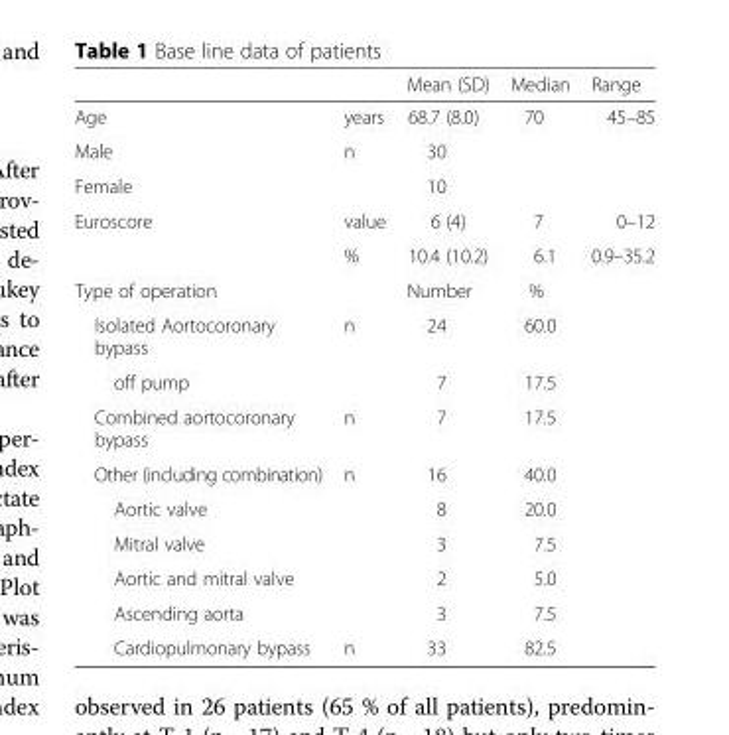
<table><thead><tr><td></td><td></td><td>Mean (SD)</td><td>Median</td><td>Range</td></tr></thead><tbody><tr><td>Age</td><td>years</td><td>68.7 (8.0)</td><td>70</td><td>45–85</td></tr><tr><td>Male</td><td>n</td><td>30</td><td></td><td></td></tr><tr><td>Female</td><td></td><td>10</td><td></td><td></td></tr><tr><td rowspan="2">Euroscore</td><td>value</td><td>6 (4)</td><td>7</td><td>0–12</td></tr><tr><td>%</td><td>10.4 (10.2)</td><td>6.1</td><td>0.9–35.2</td></tr><tr><td>Type of operation</td><td></td><td>Number</td><td>%</td><td></td></tr><tr><td>Isolated Aortocoronary bypass</td><td>n</td><td>24</td><td>60.0</td><td></td></tr><tr><td>off pump</td><td></td><td>7</td><td>17.5</td><td></td></tr><tr><td>Combined aortocoronary bypass</td><td>n</td><td>7</td><td>17.5</td><td></td></tr><tr><td>Other (including combination)</td><td>n</td><td>16</td><td>40.0</td><td></td></tr><tr><td>Aortic valve</td><td></td><td>8</td><td>20.0</td><td></td></tr><tr><td>Mitral valve</td><td></td><td>3</td><td>7.5</td><td></td></tr><tr><td>Aortic and mitral valve</td><td></td><td>2</td><td>5.0</td><td></td></tr><tr><td>Ascending aorta</td><td></td><td>3</td><td>7.5</td><td></td></tr><tr><td>Cardiopulmonary bypass</td><td>n</td><td>33</td><td>82.5</td><td></td></tr></tbody></table>